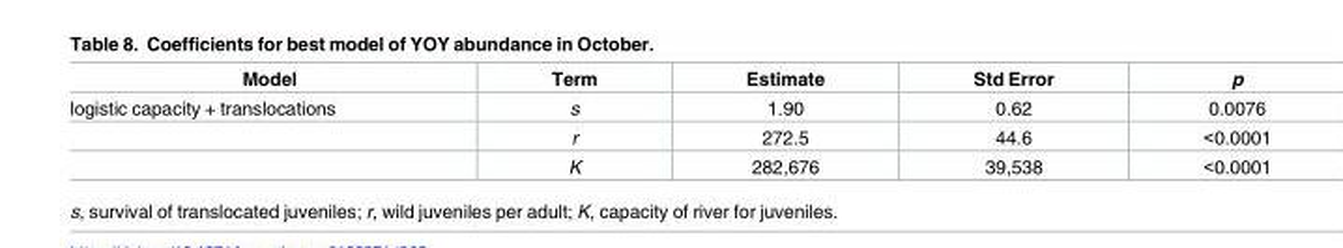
<table><thead><tr><td>Model</td><td>Term</td><td>Estimate</td><td>Std Error</td><td>p</td></tr></thead><tbody><tr><td rowspan="3">logistic capacity + translocations</td><td>s</td><td>1.90</td><td>0.62</td><td>0.0076</td></tr><tr><td>r</td><td>272.5</td><td>44.6</td><td>&lt;0.0001</td></tr><tr><td>K</td><td>282,676</td><td>39,538</td><td>&lt;0.0001</td></tr></tbody></table>